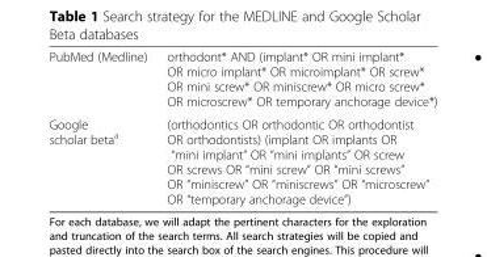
<table><tbody><tr><td>PubMed (Medline)</td><td>orthodont* AND (implant* OR mini implant* OR micro implant* OR microimplant* OR screw* OR mini screw* OR miniscrew* OR micro screw* OR microscrew* OR temporary anchorage device*)</td></tr><tr><td>Google scholar beta<sup>a</sup></td><td>(orthodontics OR orthodontic OR orthodontist OR orthodontists) (implant OR implants OR “mini implant” OR “mini implants” OR screw OR screws OR “mini screw” OR “mini screws” OR “miniscrew” OR “miniscrews” OR “microscrew” OR “temporary anchorage device”)</td></tr></tbody></table>